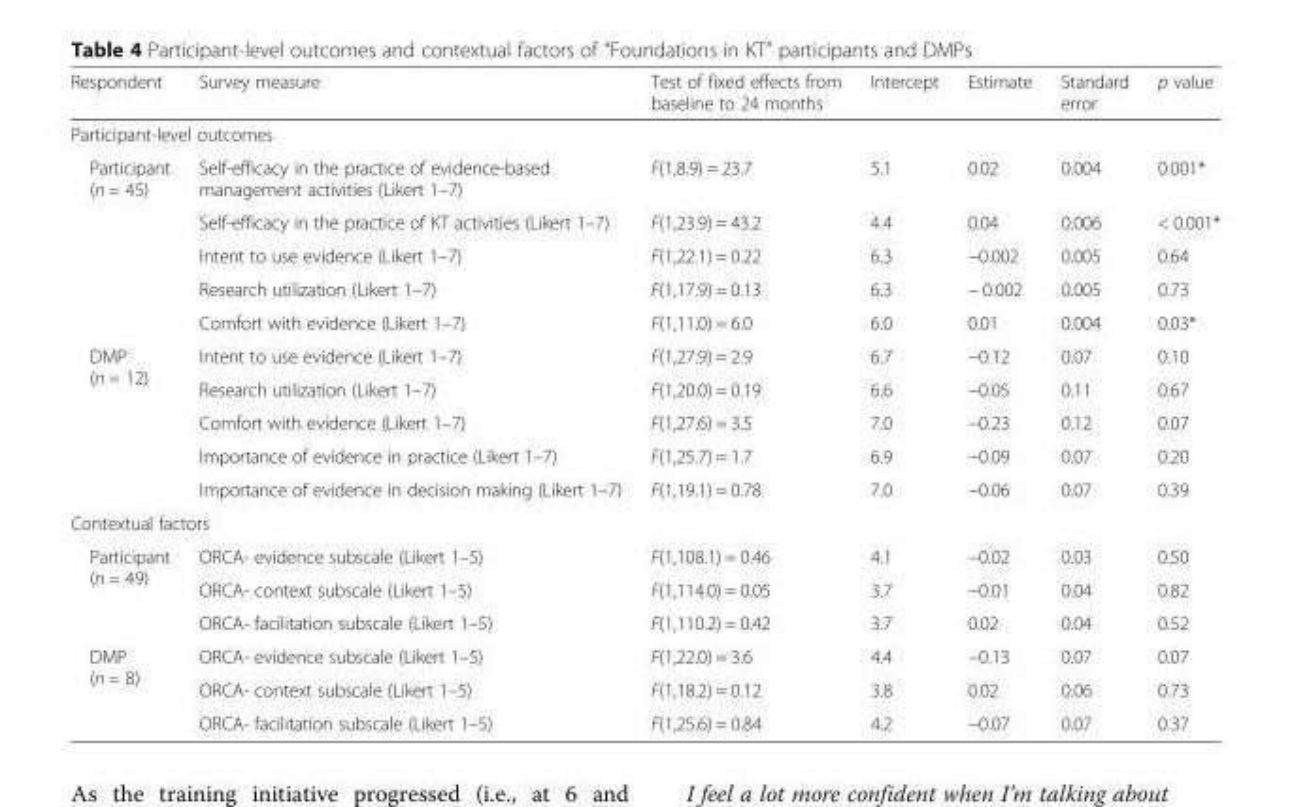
<table><thead><tr><td>Respondent</td><td>Survey measure</td><td>Test of fixed effects from baseline to 24 months</td><td>Intercept</td><td>Estimate</td><td>Standard error</td><td>p value</td></tr></thead><tbody><tr><td colspan="7">Participant-level outcomes</td></tr><tr><td rowspan="5">Participant (n = 45)</td><td>Self-efficacy in the practice of evidence-based management activities (Likert 1–7)</td><td>F(1,8.9) = 23.7</td><td>5.1</td><td>0.02</td><td>0.004</td><td>0.001*</td></tr><tr><td>Self-efficacy in the practice of KT activities (Likert 1–7)</td><td>F(1,23.9) = 43.2</td><td>4.4</td><td>0.04</td><td>0.006</td><td>&lt; 0.001*</td></tr><tr><td>Intent to use evidence (Likert 1–7)</td><td>F(1,22.1) = 0.22</td><td>6.3</td><td>−0.002</td><td>0.005</td><td>0.64</td></tr><tr><td>Research utilization (Likert 1–7)</td><td>F(1,17.9) = 0.13</td><td>6.3</td><td>− 0.002</td><td>0.005</td><td>0.73</td></tr><tr><td>Comfort with evidence (Likert 1–7)</td><td>F(1,11.0) = 6.0</td><td>6.0</td><td>0.01</td><td>0.004</td><td>0.03*</td></tr><tr><td rowspan="5">DMP (n = 12)</td><td>Intent to use evidence (Likert 1–7)</td><td>F(1,27.9) = 2.9</td><td>6.7</td><td>−0.12</td><td>0.07</td><td>0.10</td></tr><tr><td>Research utilization (Likert 1–7)</td><td>F(1,20.0) = 0.19</td><td>6.6</td><td>−0.05</td><td>0.11</td><td>0.67</td></tr><tr><td>Comfort with evidence (Likert 1–7)</td><td>F(1,27.6) = 3.5</td><td>7.0</td><td>−0.23</td><td>0.12</td><td>0.07</td></tr><tr><td>Importance of evidence in practice (Likert 1–7)</td><td>F(1,25.7) = 1.7</td><td>6.9</td><td>−0.09</td><td>0.07</td><td>0.20</td></tr><tr><td>Importance of evidence in decision making (Likert 1–7)</td><td>F(1,19.1) = 0.78</td><td>7.0</td><td>−0.06</td><td>0.07</td><td>0.39</td></tr><tr><td colspan="7">Contextual factors</td></tr><tr><td rowspan="3">Participant (n = 49)</td><td>ORCA- evidence subscale (Likert 1–5)</td><td>F(1,108.1) = 0.46</td><td>4.1</td><td>−0.02</td><td>0.03</td><td>0.50</td></tr><tr><td>ORCA- context subscale (Likert 1–5)</td><td>F(1,114.0) = 0.05</td><td>3.7</td><td>−0.01</td><td>0.04</td><td>0.82</td></tr><tr><td>ORCA- facilitation subscale (Likert 1–5)</td><td>F(1,110.2) = 0.42</td><td>3.7</td><td>0.02</td><td>0.04</td><td>0.52</td></tr><tr><td rowspan="3">DMP (n = 8)</td><td>ORCA- evidence subscale (Likert 1–5)</td><td>F(1,22.0) = 3.6</td><td>4.4</td><td>−0.13</td><td>0.07</td><td>0.07</td></tr><tr><td>ORCA- context subscale (Likert 1–5)</td><td>F(1,18.2) = 0.12</td><td>3.8</td><td>0.02</td><td>0.06</td><td>0.73</td></tr><tr><td>ORCA- facilitation subscale (Likert 1–5)</td><td>F(1,25.6) = 0.84</td><td>4.2</td><td>−0.07</td><td>0.07</td><td>0.37</td></tr></tbody></table>